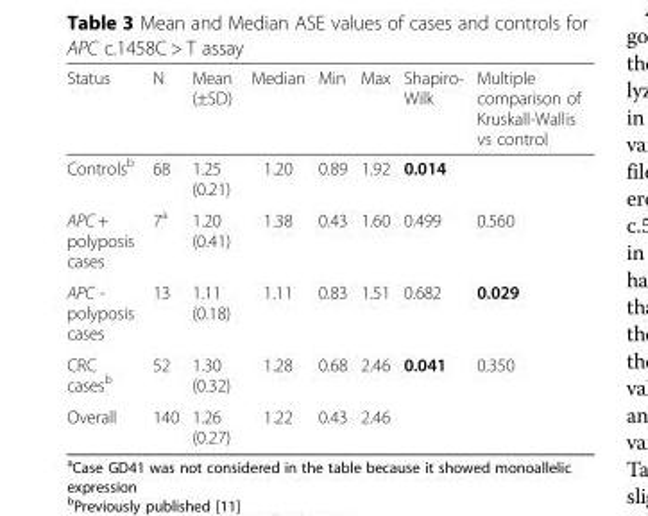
<table><thead><tr><td>Status</td><td>N</td><td>Mean (±SD)</td><td>Median</td><td>Min</td><td>Max</td><td>Shapiro- Wilk</td><td>Multiple comparison of Kruskall-Wallis vs control</td></tr></thead><tbody><tr><td>Controls<sup>b</sup></td><td>68</td><td>1.25 (0.21)</td><td>1.20</td><td>0.89</td><td>1.92</td><td>0.014</td><td></td></tr><tr><td>APC + polyposis cases</td><td>7<sup>a</sup></td><td>1.20 (0.41)</td><td>1.38</td><td>0.43</td><td>1.60</td><td>0.499</td><td>0.560</td></tr><tr><td>APC - polyposis cases</td><td>13</td><td>1.11 (0.18)</td><td>1.11</td><td>0.83</td><td>1.51</td><td>0.682</td><td>0.029</td></tr><tr><td>CRC cases<sup>b</sup></td><td>52</td><td>1.30 (0.32)</td><td>1.28</td><td>0.68</td><td>2.46</td><td>0.041</td><td>0.350</td></tr><tr><td>Overall</td><td>140</td><td>1.26 (0.27)</td><td>1.22</td><td>0.43</td><td>2.46</td><td></td><td></td></tr></tbody></table>